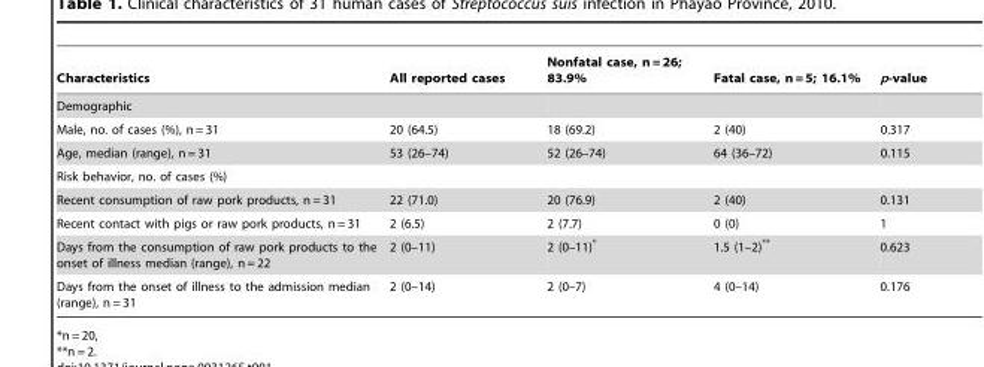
<table><thead><tr><td>Characteristics</td><td>All reported cases</td><td>Nonfatal case, n = 26; 83.9%</td><td>Fatal case, n = 5; 16.1%</td><td>p-value</td></tr></thead><tbody><tr><td colspan="5">Demographic</td></tr><tr><td>Male, no. of cases (%), n = 31</td><td>20 (64.5)</td><td>18 (69.2)</td><td>2 (40)</td><td>0.317</td></tr><tr><td>Age, median (range), n = 31</td><td>53 (26–74)</td><td>52 (26–74)</td><td>64 (36–72)</td><td>0.115</td></tr><tr><td colspan="5">Risk behavior, no. of cases (%)</td></tr><tr><td>Recent consumption of raw pork products, n = 31</td><td>22 (71.0)</td><td>20 (76.9)</td><td>2 (40)</td><td>0.131</td></tr><tr><td>Recent contact with pigs or raw pork products, n = 31</td><td>2 (6.5)</td><td>2 (7.7)</td><td>0 (0)</td><td>1</td></tr><tr><td>Days from the consumption of raw pork products to the onset of illness median (range), n = 22</td><td>2 (0–11)</td><td>2 (0–11)*</td><td>1.5 (1–2)**</td><td>0.623</td></tr><tr><td>Days from the onset of illness to the admission median (range), n = 31</td><td>2 (0–14)</td><td>2 (0–7)</td><td>4 (0–14)</td><td>0.176</td></tr></tbody></table>